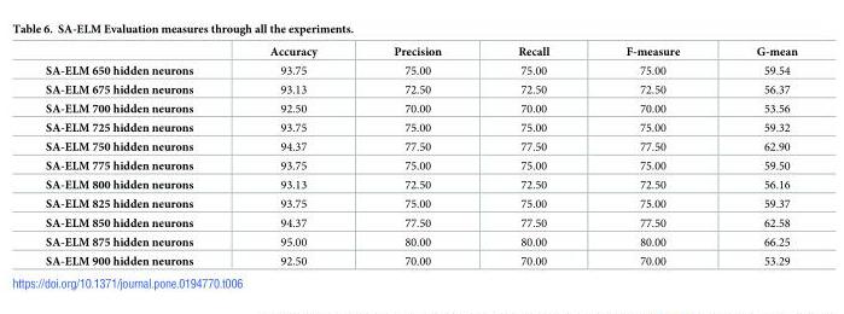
<table><thead><tr><td></td><td>Accuracy</td><td>Precision</td><td>Recall</td><td>F-measure</td><td>G-mean</td></tr></thead><tbody><tr><td>SA-ELM 650 hidden neurons</td><td>93.75</td><td>75.00</td><td>75.00</td><td>75.00</td><td>59.54</td></tr><tr><td>SA-ELM 675 hidden neurons</td><td>93.13</td><td>72.50</td><td>72.50</td><td>72.50</td><td>56.37</td></tr><tr><td>SA-ELM 700 hidden neurons</td><td>92.50</td><td>70.00</td><td>70.00</td><td>70.00</td><td>53.56</td></tr><tr><td>SA-ELM 725 hidden neurons</td><td>93.75</td><td>75.00</td><td>75.00</td><td>75.00</td><td>59.32</td></tr><tr><td>SA-ELM 750 hidden neurons</td><td>94.37</td><td>77.50</td><td>77.50</td><td>77.50</td><td>62.90</td></tr><tr><td>SA-ELM 775 hidden neurons</td><td>93.75</td><td>75.00</td><td>75.00</td><td>75.00</td><td>59.50</td></tr><tr><td>SA-ELM 800 hidden neurons</td><td>93.13</td><td>72.50</td><td>72.50</td><td>72.50</td><td>56.16</td></tr><tr><td>SA-ELM 825 hidden neurons</td><td>93.75</td><td>75.00</td><td>75.00</td><td>75.00</td><td>59.37</td></tr><tr><td>SA-ELM 850 hidden neurons</td><td>94.37</td><td>77.50</td><td>77.50</td><td>77.50</td><td>62.58</td></tr><tr><td>SA-ELM 875 hidden neurons</td><td>95.00</td><td>80.00</td><td>80.00</td><td>80.00</td><td>66.25</td></tr><tr><td>SA-ELM 900 hidden neurons</td><td>92.50</td><td>70.00</td><td>70.00</td><td>70.00</td><td>53.29</td></tr></tbody></table>